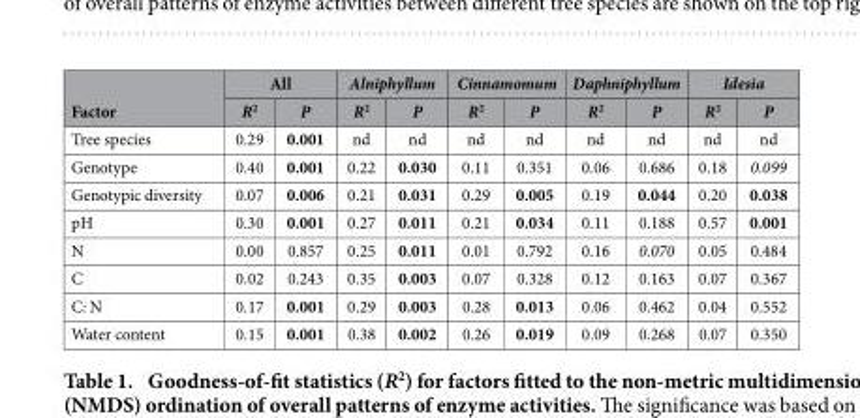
<table><thead><tr><td rowspan="2">Factor</td><td colspan="2">All</td><td colspan="2">Alniphyllum</td><td colspan="2">Cinnamomum</td><td colspan="2">Daphniphyllum</td><td colspan="2">Idesia</td></tr><tr><td>R<sup>2</sup></td><td>P</td><td>R<sup>2</sup></td><td>P</td><td>R<sup>2</sup></td><td>P</td><td>R<sup>2</sup></td><td>P</td><td>R<sup>2</sup></td><td>P</td></tr></thead><tbody><tr><td>Tree species</td><td>0.29</td><td>0.001</td><td>nd</td><td>nd</td><td>nd</td><td>nd</td><td>nd</td><td>nd</td><td>nd</td><td>nd</td></tr><tr><td>Genotype</td><td>0.40</td><td>0.001</td><td>0.22</td><td>0.030</td><td>0.11</td><td>0.351</td><td>0.06</td><td>0.686</td><td>0.18</td><td>0.099</td></tr><tr><td>Genotypic diversity</td><td>0.07</td><td>0.006</td><td>0.21</td><td>0.031</td><td>0.29</td><td>0.005</td><td>0.19</td><td>0.044</td><td>0.20</td><td>0.038</td></tr><tr><td>pH</td><td>0.30</td><td>0.001</td><td>0.27</td><td>0.011</td><td>0.21</td><td>0.034</td><td>0.11</td><td>0.188</td><td>0.57</td><td>0.001</td></tr><tr><td>N</td><td>0.00</td><td>0.857</td><td>0.25</td><td>0.011</td><td>0.01</td><td>0.792</td><td>0.16</td><td>0.070</td><td>0.05</td><td>0.484</td></tr><tr><td>C</td><td>0.02</td><td>0.243</td><td>0.35</td><td>0.003</td><td>0.07</td><td>0.328</td><td>0.12</td><td>0.163</td><td>0.07</td><td>0.367</td></tr><tr><td>C: N</td><td>0.17</td><td>0.001</td><td>0.29</td><td>0.003</td><td>0.28</td><td>0.013</td><td>0.06</td><td>0.462</td><td>0.04</td><td>0.552</td></tr><tr><td>Water content</td><td>0.15</td><td>0.001</td><td>0.38</td><td>0.002</td><td>0.26</td><td>0.019</td><td>0.09</td><td>0.268</td><td>0.07</td><td>0.350</td></tr></tbody></table>